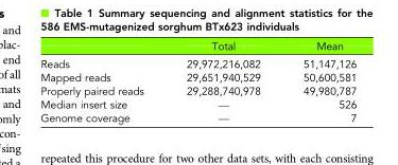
<table><thead><tr><td></td><td>Total</td><td>Mean</td></tr></thead><tbody><tr><td>Reads</td><td>29,972,216,082</td><td>51,147,126</td></tr><tr><td>Mapped reads</td><td>29,651,940,529</td><td>50,600,581</td></tr><tr><td>Properly paired reads</td><td>29,288,740,978</td><td>49,980,787</td></tr><tr><td>Median insert size</td><td>—</td><td>526</td></tr><tr><td>Genome coverage</td><td>—</td><td>7</td></tr></tbody></table>